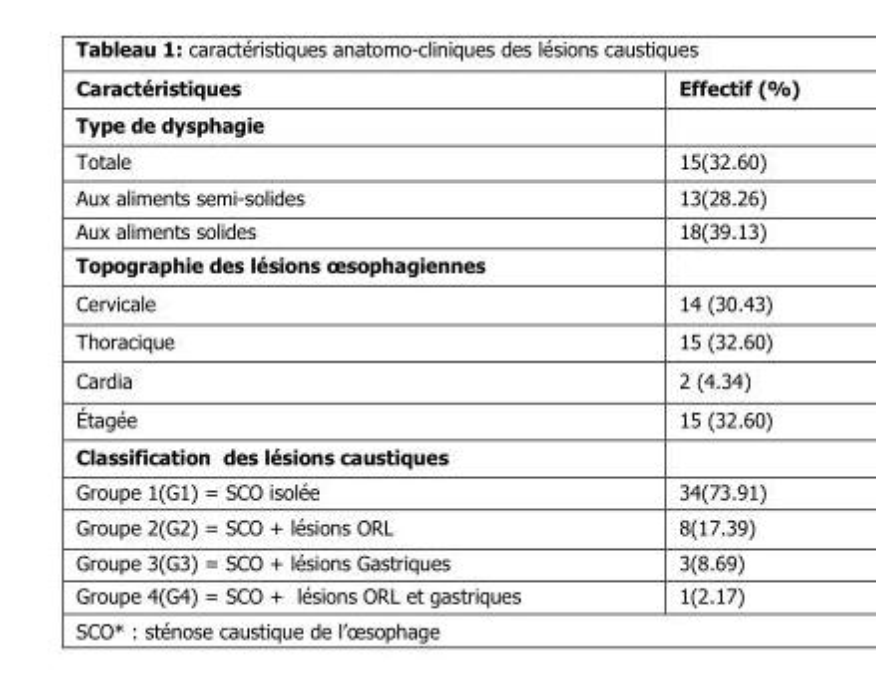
<table><thead><tr><td>Caractéristiques</td><td>Effectif (%)</td></tr></thead><tbody><tr><td colspan="2">Type de dysphagie</td></tr><tr><td>Totale</td><td>15(32.60)</td></tr><tr><td>Aux aliments semi-solides</td><td>13(28.26)</td></tr><tr><td>Aux aliments solides</td><td>18(39.13)</td></tr><tr><td colspan="2">Topographie des lésions œsophagiennes</td></tr><tr><td>Cervicale</td><td>14 (30.43)</td></tr><tr><td>Thoracique</td><td>15 (32.60)</td></tr><tr><td>Cardia</td><td>2 (4.34)</td></tr><tr><td>Étagée</td><td>15 (32.60)</td></tr><tr><td colspan="2">Classification des lésions caustiques</td></tr><tr><td>Groupe 1(G1) = SCO isolée</td><td>34(73.91)</td></tr><tr><td>Groupe 2(G2) = SCO + lésions ORL</td><td>8(17.39)</td></tr><tr><td>Groupe 3(G3) = SCO + lésions Gastriques</td><td>3(8.69)</td></tr><tr><td>Groupe 4(G4) = SCO + lésions ORL et gastriques</td><td>1(2.17)</td></tr></tbody></table>